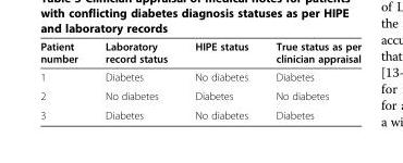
<table><thead><tr><td>Patient number</td><td>Laboratory record status</td><td>HIPE status</td><td>True status as per clinician appraisal</td></tr></thead><tbody><tr><td>1</td><td>Diabetes</td><td>No diabetes</td><td>Diabetes</td></tr><tr><td>2</td><td>No diabetes</td><td>Diabetes</td><td>No diabetes</td></tr><tr><td>3</td><td>Diabetes</td><td>No diabetes</td><td>Diabetes</td></tr></tbody></table>